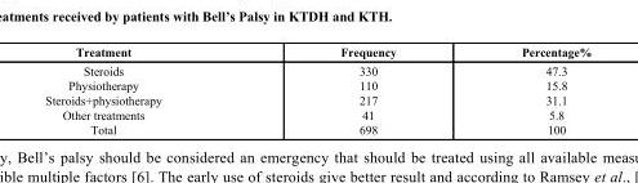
<table><thead><tr><td>Treatment</td><td>Frequency</td><td>Percentage%</td></tr></thead><tbody><tr><td>Steroids Physiotherapy Steroids+physiotherapy Other treatments Total</td><td>330 110 217 41 698</td><td>47.3 15.8 31.1 5.8 100</td></tr></tbody></table>